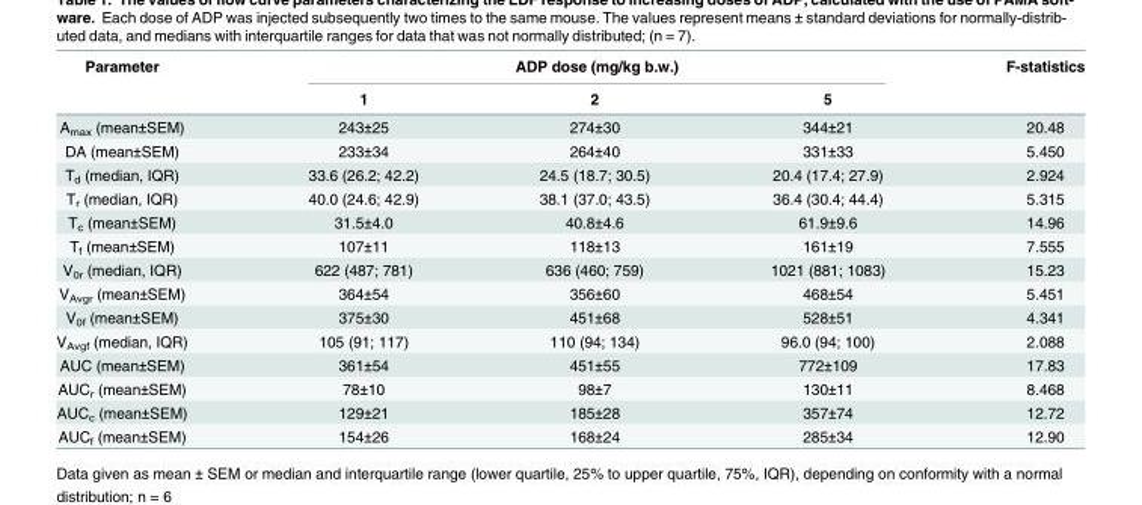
<table><thead><tr><td rowspan="2">Parameter</td><td colspan="3">ADP dose (mg/kg b.w.)</td><td rowspan="2">F-statistics</td></tr><tr><td>1</td><td>2</td><td>5</td></tr></thead><tbody><tr><td>A<sub>max</sub> (mean±SEM)</td><td>243±25</td><td>274±30</td><td>344±21</td><td>20.48</td></tr><tr><td>DA (mean±SEM)</td><td>233±34</td><td>264±40</td><td>331±33</td><td>5.450</td></tr><tr><td>T<sub>d</sub> (median, IQR)</td><td>33.6 (26.2; 42.2)</td><td>24.5 (18.7; 30.5)</td><td>20.4 (17.4; 27.9)</td><td>2.924</td></tr><tr><td>T<sub>r</sub> (median, IQR)</td><td>40.0 (24.6; 42.9)</td><td>38.1 (37.0; 43.5)</td><td>36.4 (30.4; 44.4)</td><td>5.315</td></tr><tr><td>T<sub>c</sub> (mean±SEM)</td><td>31.5±4.0</td><td>40.8±4.6</td><td>61.9±9.6</td><td>14.96</td></tr><tr><td>T<sub>f</sub> (mean±SEM)</td><td>107±11</td><td>118±13</td><td>161±19</td><td>7.555</td></tr><tr><td>V<sub>0r</sub> (median, IQR)</td><td>622 (487; 781)</td><td>636 (460; 759)</td><td>1021 (881; 1083)</td><td>15.23</td></tr><tr><td>V<sub>Avgr</sub> (mean±SEM)</td><td>364±54</td><td>356±60</td><td>468±54</td><td>5.451</td></tr><tr><td>V<sub>0f</sub> (mean±SEM)</td><td>375±30</td><td>451±68</td><td>528±51</td><td>4.341</td></tr><tr><td>V<sub>Avgf</sub> (median, IQR)</td><td>105 (91; 117)</td><td>110 (94; 134)</td><td>96.0 (94; 100)</td><td>2.088</td></tr><tr><td>AUC (mean±SEM)</td><td>361±54</td><td>451±55</td><td>772±109</td><td>17.83</td></tr><tr><td>AUC<sub>r</sub> (mean±SEM)</td><td>78±10</td><td>98±7</td><td>130±11</td><td>8.468</td></tr><tr><td>AUC<sub>c</sub> (mean±SEM)</td><td>129±21</td><td>185±28</td><td>357±74</td><td>12.72</td></tr><tr><td>AUC<sub>f</sub> (mean±SEM)</td><td>154±26</td><td>168±24</td><td>285±34</td><td>12.90</td></tr></tbody></table>